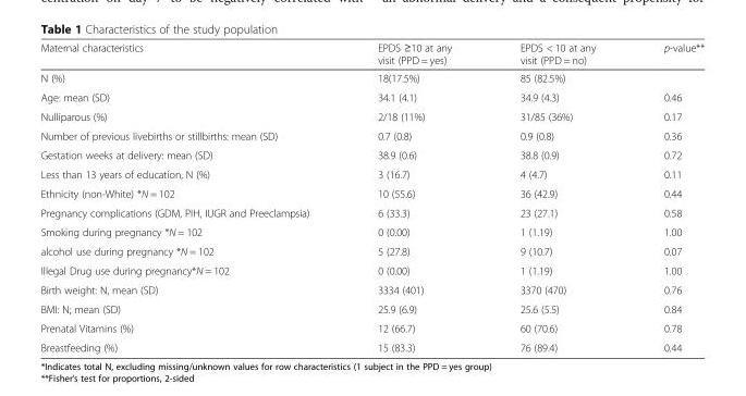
<table><thead><tr><td>Maternal characteristics</td><td>EPDS ≥10 at any visit (PPD = yes)</td><td>EPDS &lt; 10 at any visit (PPD = no)</td><td>p-value**</td></tr></thead><tbody><tr><td>N (%)</td><td>18(17.5%)</td><td>85 (82.5%)</td><td></td></tr><tr><td>Age: mean (SD)</td><td>34.1 (4.1)</td><td>34.9 (4.3)</td><td>0.46</td></tr><tr><td>Nulliparous (%)</td><td>2/18 (11%)</td><td>31/85 (36%)</td><td>0.17</td></tr><tr><td>Number of previous livebirths or stillbirths: mean (SD)</td><td>0.7 (0.8)</td><td>0.9 (0.8)</td><td>0.36</td></tr><tr><td>Gestation weeks at delivery: mean (SD)</td><td>38.9 (0.6)</td><td>38.8 (0.9)</td><td>0.72</td></tr><tr><td>Less than 13 years of education, N (%)</td><td>3 (16.7)</td><td>4 (4.7)</td><td>0.11</td></tr><tr><td>Ethnicity (non-White) *N = 102</td><td>10 (55.6)</td><td>36 (42.9)</td><td>0.44</td></tr><tr><td>Pregnancy complications (GDM, PIH, IUGR and Preeclampsia)</td><td>6 (33.3)</td><td>23 (27.1)</td><td>0.58</td></tr><tr><td>Smoking during pregnancy *N = 102</td><td>0 (0.00)</td><td>1 (1.19)</td><td>1.00</td></tr><tr><td>alcohol use during pregnancy *N = 102</td><td>5 (27.8)</td><td>9 (10.7)</td><td>0.07</td></tr><tr><td>Illegal Drug use during pregnancy*N = 102</td><td>0 (0.00)</td><td>1 (1.19)</td><td>1.00</td></tr><tr><td>Birth weight: N, mean (SD)</td><td>3334 (401)</td><td>3370 (470)</td><td>0.76</td></tr><tr><td>BMI: N; mean (SD)</td><td>25.9 (6.9)</td><td>25.6 (5.5)</td><td>0.84</td></tr><tr><td>Prenatal Vitamins (%)</td><td>12 (66.7)</td><td>60 (70.6)</td><td>0.78</td></tr><tr><td>Breastfeeding (%)</td><td>15 (83.3)</td><td>76 (89.4)</td><td>0.44</td></tr></tbody></table>